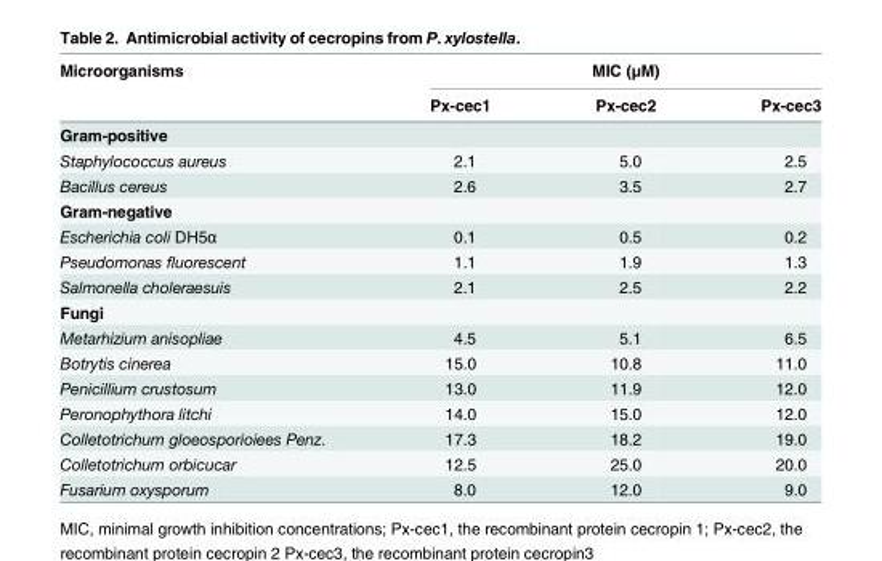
<table><thead><tr><td rowspan="2">Microorganisms</td><td colspan="3">MIC (μM)</td></tr><tr><td>Px-cec1</td><td>Px-cec2</td><td>Px-cec3</td></tr></thead><tbody><tr><td colspan="4">Gram-positive</td></tr><tr><td>Staphylococcus aureus</td><td>2.1</td><td>5.0</td><td>2.5</td></tr><tr><td>Bacillus cereus</td><td>2.6</td><td>3.5</td><td>2.7</td></tr><tr><td colspan="4">Gram-negative</td></tr><tr><td>Escherichia coli DH5α</td><td>0.1</td><td>0.5</td><td>0.2</td></tr><tr><td>Pseudomonas fluorescent</td><td>1.1</td><td>1.9</td><td>1.3</td></tr><tr><td>Salmonella choleraesuis</td><td>2.1</td><td>2.5</td><td>2.2</td></tr><tr><td colspan="4">Fungi</td></tr><tr><td>Metarhizium anisopliae</td><td>4.5</td><td>5.1</td><td>6.5</td></tr><tr><td>Botrytis cinerea</td><td>15.0</td><td>10.8</td><td>11.0</td></tr><tr><td>Penicillium crustosum</td><td>13.0</td><td>11.9</td><td>12.0</td></tr><tr><td>Peronophythora litchi</td><td>14.0</td><td>15.0</td><td>12.0</td></tr><tr><td>Colletotrichum gloeosporioiees Penz.</td><td>17.3</td><td>18.2</td><td>19.0</td></tr><tr><td>Colletotrichum orbicucar</td><td>12.5</td><td>25.0</td><td>20.0</td></tr><tr><td>Fusarium oxysporum</td><td>8.0</td><td>12.0</td><td>9.0</td></tr></tbody></table>